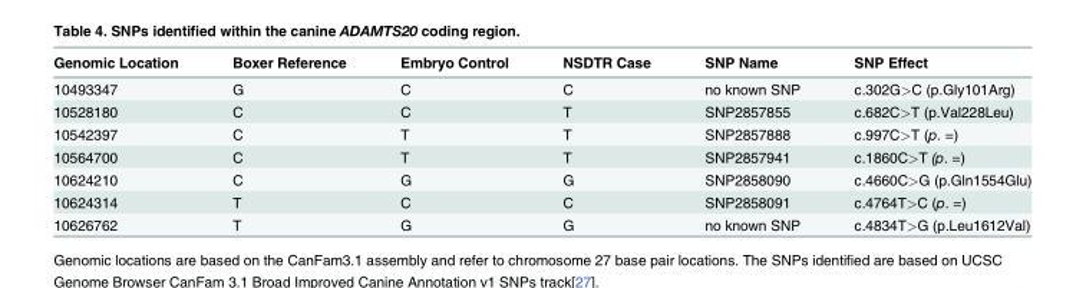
<table><thead><tr><td>Genomic Location</td><td>Boxer Reference</td><td>Embryo Control</td><td>NSDTR Case</td><td>SNP Name</td><td>SNP Effect</td></tr></thead><tbody><tr><td>10493347</td><td>G</td><td>C</td><td>C</td><td>no known SNP</td><td>c.302G&gt;C (p.Gly101Arg)</td></tr><tr><td>10528180</td><td>C</td><td>C</td><td>T</td><td>SNP2857855</td><td>c.682C&gt;T (p.Val228Leu)</td></tr><tr><td>10542397</td><td>C</td><td>T</td><td>T</td><td>SNP2857888</td><td>c.997C&gt;T (p. =)</td></tr><tr><td>10564700</td><td>C</td><td>T</td><td>T</td><td>SNP2857941</td><td>c.1860C&gt;T (p. =)</td></tr><tr><td>10624210</td><td>C</td><td>G</td><td>G</td><td>SNP2858090</td><td>c.4660C&gt;G (p.Gln1554Glu)</td></tr><tr><td>10624314</td><td>T</td><td>C</td><td>C</td><td>SNP2858091</td><td>c.4764T&gt;C (p. =)</td></tr><tr><td>10626762</td><td>T</td><td>G</td><td>G</td><td>no known SNP</td><td>c.4834T&gt;G (p.Leu1612Val)</td></tr></tbody></table>